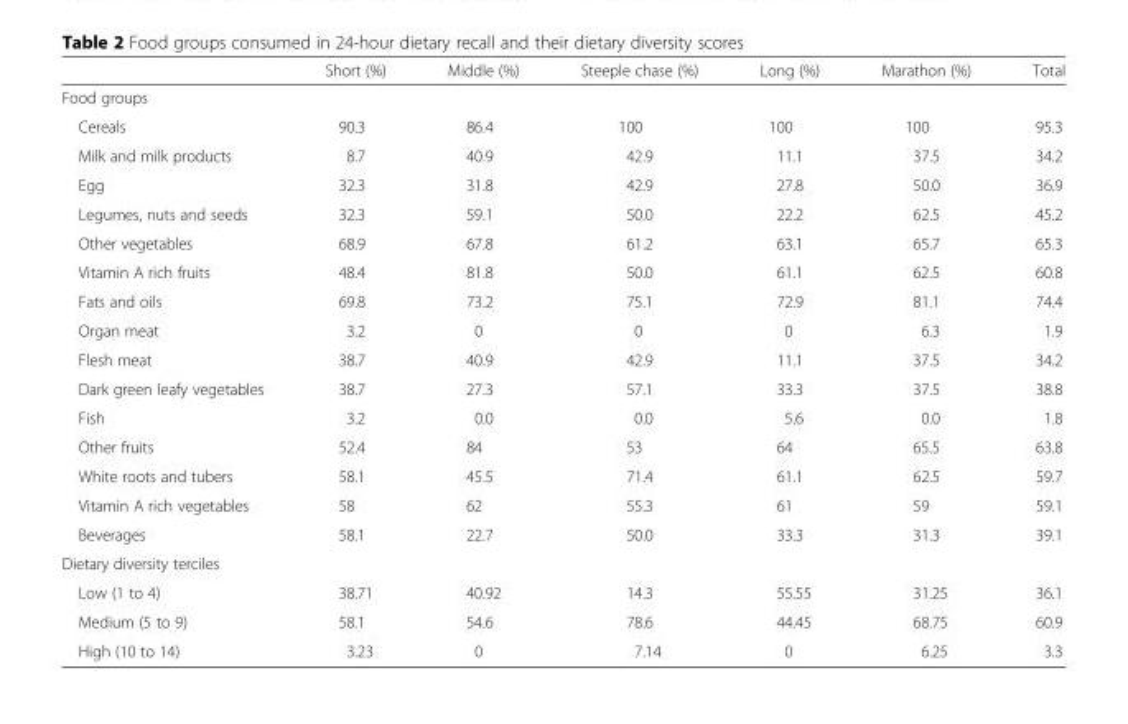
<table><thead><tr><td></td><td>Short (%)</td><td>Middle (%)</td><td>Steeple chase (%)</td><td>Long (%)</td><td>Marathon (%)</td><td>Total</td></tr></thead><tbody><tr><td colspan="7">Food groups</td></tr><tr><td>Cereals</td><td>90.3</td><td>86.4</td><td>100</td><td>100</td><td>100</td><td>95.3</td></tr><tr><td>Milk and milk products</td><td>8.7</td><td>40.9</td><td>42.9</td><td>11.1</td><td>37.5</td><td>34.2</td></tr><tr><td>Egg</td><td>32.3</td><td>31.8</td><td>42.9</td><td>27.8</td><td>50.0</td><td>36.9</td></tr><tr><td>Legumes, nuts and seeds</td><td>32.3</td><td>59.1</td><td>50.0</td><td>22.2</td><td>62.5</td><td>45.2</td></tr><tr><td>Other vegetables</td><td>68.9</td><td>67.8</td><td>61.2</td><td>63.1</td><td>65.7</td><td>65.3</td></tr><tr><td>Vitamin A rich fruits</td><td>48.4</td><td>81.8</td><td>50.0</td><td>61.1</td><td>62.5</td><td>60.8</td></tr><tr><td>Fats and oils</td><td>69.8</td><td>73.2</td><td>75.1</td><td>72.9</td><td>81.1</td><td>74.4</td></tr><tr><td>Organ meat</td><td>3.2</td><td>0</td><td>0</td><td>0</td><td>6.3</td><td>1.9</td></tr><tr><td>Flesh meat</td><td>38.7</td><td>40.9</td><td>42.9</td><td>11.1</td><td>37.5</td><td>34.2</td></tr><tr><td>Dark green leafy vegetables</td><td>38.7</td><td>27.3</td><td>57.1</td><td>33.3</td><td>37.5</td><td>38.8</td></tr><tr><td>Fish</td><td>3.2</td><td>0.0</td><td>0.0</td><td>5.6</td><td>0.0</td><td>1.8</td></tr><tr><td>Other fruits</td><td>52.4</td><td>84</td><td>53</td><td>64</td><td>65.5</td><td>63.8</td></tr><tr><td>White roots and tubers</td><td>58.1</td><td>45.5</td><td>71.4</td><td>61.1</td><td>62.5</td><td>59.7</td></tr><tr><td>Vitamin A rich vegetables</td><td>58</td><td>62</td><td>55.3</td><td>61</td><td>59</td><td>59.1</td></tr><tr><td>Beverages</td><td>58.1</td><td>22.7</td><td>50.0</td><td>33.3</td><td>31.3</td><td>39.1</td></tr><tr><td colspan="7">Dietary diversity terciles</td></tr><tr><td>Low (1 to 4)</td><td>38.71</td><td>40.92</td><td>14.3</td><td>55.55</td><td>31.25</td><td>36.1</td></tr><tr><td>Medium (5 to 9)</td><td>58.1</td><td>54.6</td><td>78.6</td><td>44.45</td><td>68.75</td><td>60.9</td></tr><tr><td>High (10 to 14)</td><td>3.23</td><td>0</td><td>7.14</td><td>0</td><td>6.25</td><td>3.3</td></tr></tbody></table>